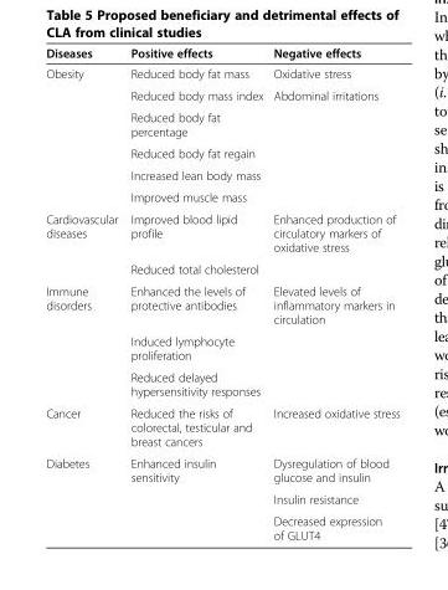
<table><thead><tr><td>Diseases</td><td>Positive effects</td><td>Negative effects</td></tr></thead><tbody><tr><td rowspan="6">Obesity</td><td>Reduced body fat mass</td><td>Oxidative stress</td></tr><tr><td>Reduced body mass index</td><td>Abdominal irritations</td></tr><tr><td>Reduced body fat percentage</td><td></td></tr><tr><td>Reduced body fat regain</td><td></td></tr><tr><td>Increased lean body mass</td><td></td></tr><tr><td>Improved muscle mass</td><td></td></tr><tr><td rowspan="2">Cardiovascular diseases</td><td>Improved blood lipid profile</td><td>Enhanced production of circulatory markers of oxidative stress</td></tr><tr><td>Reduced total cholesterol</td><td></td></tr><tr><td rowspan="3">Immune disorders</td><td>Enhanced the levels of protective antibodies</td><td>Elevated levels of inflammatory markers in circulation</td></tr><tr><td>Induced lymphocyte proliferation</td><td></td></tr><tr><td>Reduced delayed hypersensitivity responses</td><td></td></tr><tr><td>Cancer</td><td>Reduced the risks of colorectal, testicular and breast cancers</td><td>Increased oxidative stress</td></tr><tr><td rowspan="3">Diabetes</td><td>Enhanced insulin sensitivity</td><td>Dysregulation of blood glucose and insulin</td></tr><tr><td></td><td>Insulin resistance</td></tr><tr><td></td><td>Decreased expression of GLUT4</td></tr></tbody></table>